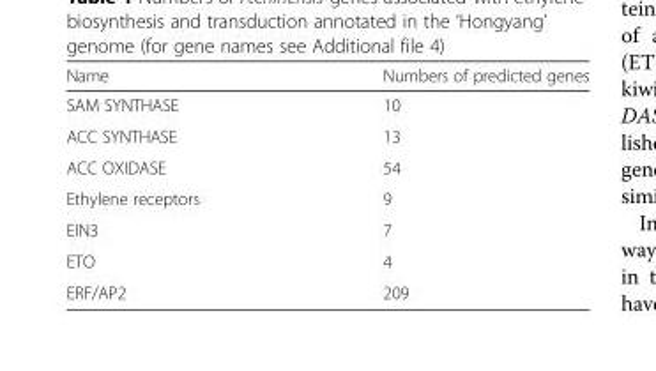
<table><thead><tr><td>Name</td><td>Numbers of predicted genes</td></tr></thead><tbody><tr><td>SAM SYNTHASE</td><td>10</td></tr><tr><td>ACC SYNTHASE</td><td>13</td></tr><tr><td>ACC OXIDASE</td><td>54</td></tr><tr><td>Ethylene receptors</td><td>9</td></tr><tr><td>EIN3</td><td>7</td></tr><tr><td>ETO</td><td>4</td></tr><tr><td>ERF/AP2</td><td>209</td></tr></tbody></table>